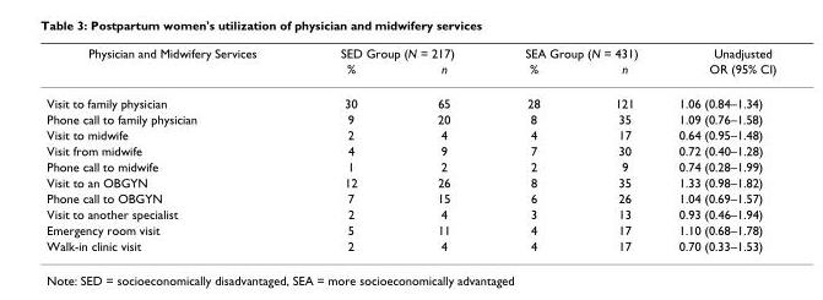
<table><thead><tr><td rowspan="2">Physician and Midwifery Services</td><td colspan="2">SED Group (N = 217)</td><td colspan="2">SEA Group (N = 431)</td><td rowspan="2">Unadjusted OR (95% CI)</td></tr><tr><td>%</td><td>n</td><td>%</td><td>n</td></tr></thead><tbody><tr><td>Visit to family physician</td><td>30</td><td>65</td><td>28</td><td>121</td><td>1.06 (0.84–1.34)</td></tr><tr><td>Phone call to family physician</td><td>9</td><td>20</td><td>8</td><td>35</td><td>1.09 (0.76–1.58)</td></tr><tr><td>Visit to midwife</td><td>2</td><td>4</td><td>4</td><td>17</td><td>0.64 (0.95–1.48)</td></tr><tr><td>Visit from midwife</td><td>4</td><td>9</td><td>7</td><td>30</td><td>0.72 (0.40–1.28)</td></tr><tr><td>Phone call to midwife</td><td>1</td><td>2</td><td>2</td><td>9</td><td>0.74 (0.28–1.99)</td></tr><tr><td>Visit to an OBGYN</td><td>12</td><td>26</td><td>8</td><td>35</td><td>1.33 (0.98–1.82)</td></tr><tr><td>Phone call to OBGYN</td><td>7</td><td>15</td><td>6</td><td>26</td><td>1.04 (0.69–1.57)</td></tr><tr><td>Visit to another specialist</td><td>2</td><td>4</td><td>3</td><td>13</td><td>0.93 (0.46–1.94)</td></tr><tr><td>Emergency room visit</td><td>5</td><td>11</td><td>4</td><td>17</td><td>1.10 (0.68–1.78)</td></tr><tr><td>Walk-in clinic visit</td><td>2</td><td>4</td><td>4</td><td>17</td><td>0.70 (0.33–1.53)</td></tr></tbody></table>